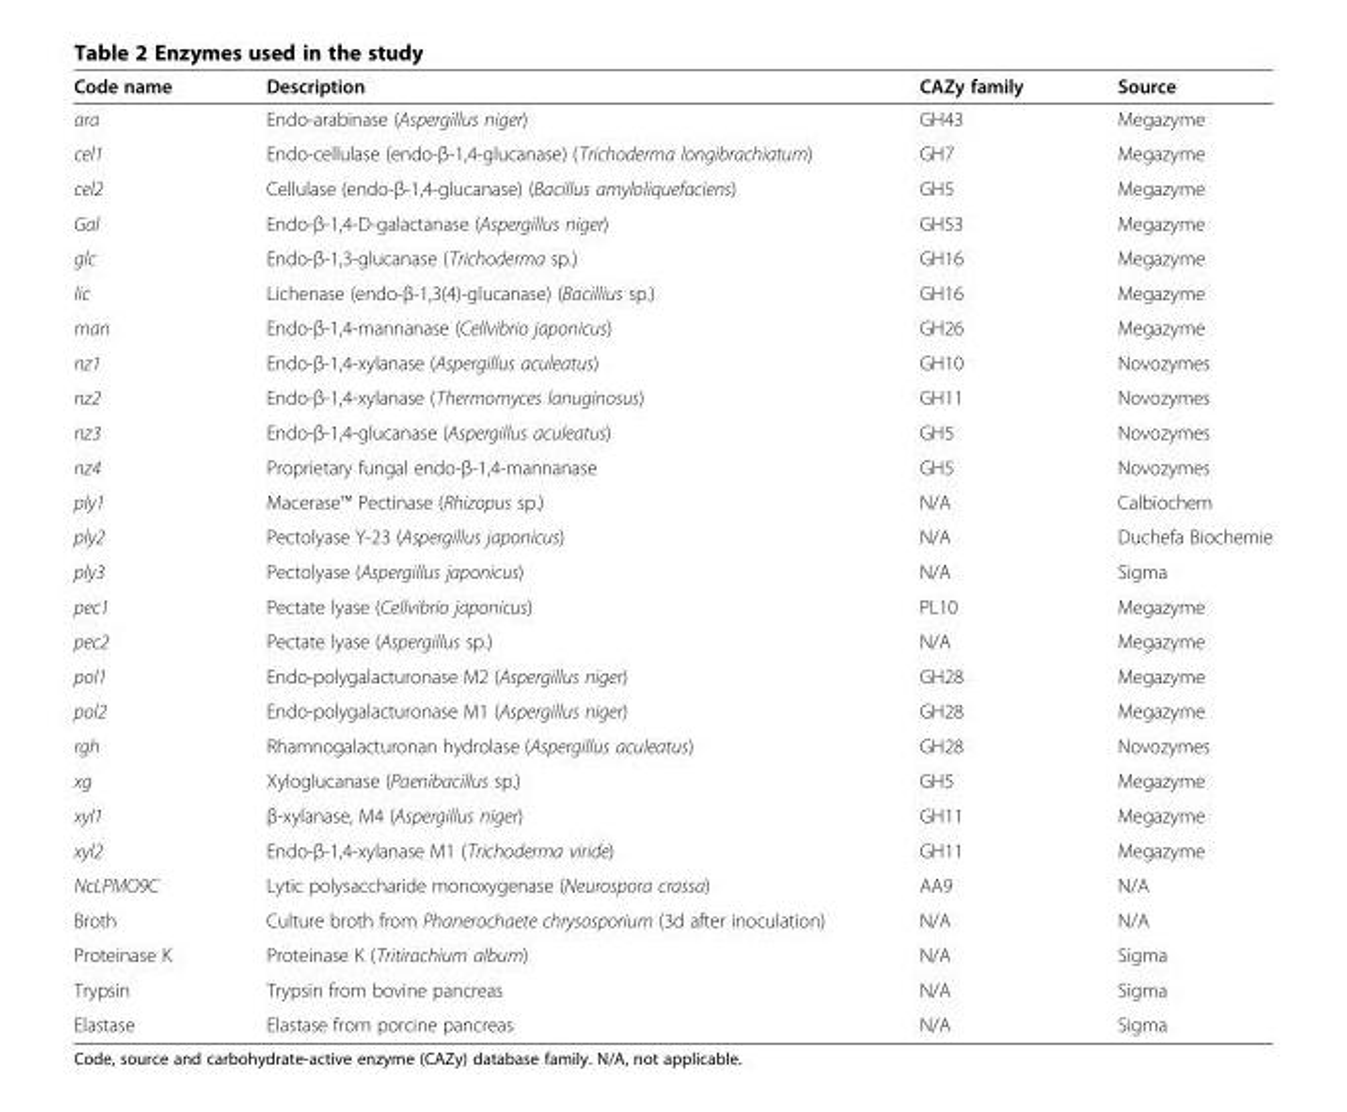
<table><thead><tr><td>Code name</td><td>Description</td><td>CAZy family</td><td>Source</td></tr></thead><tbody><tr><td>ara</td><td>Endo-arabinase (Aspergillus niger)</td><td>GH43</td><td>Megazyme</td></tr><tr><td>cel1</td><td>Endo-cellulase (endo-β-1,4-glucanase) (Trichoderma longibrachiatum)</td><td>GH7</td><td>Megazyme</td></tr><tr><td>cel2</td><td>Cellulase (endo-β-1,4-glucanase) (Bacillus amyloliquefaciens)</td><td>GH5</td><td>Megazyme</td></tr><tr><td>Gal</td><td>Endo-β-1,4-D-galactanase (Aspergillus niger)</td><td>GH53</td><td>Megazyme</td></tr><tr><td>glc</td><td>Endo-β-1,3-glucanase (Trichoderma sp.)</td><td>GH16</td><td>Megazyme</td></tr><tr><td>lic</td><td>Lichenase (endo-β-1,3(4)-glucanase) (Bacillius sp.)</td><td>GH16</td><td>Megazyme</td></tr><tr><td>man</td><td>Endo-β-1,4-mannanase (Cellvibrio japonicus)</td><td>GH26</td><td>Megazyme</td></tr><tr><td>nz1</td><td>Endo-β-1,4-xylanase (Aspergillus aculeatus)</td><td>GH10</td><td>Novozymes</td></tr><tr><td>nz2</td><td>Endo-β-1,4-xylanase (Thermomyces lanuginosus)</td><td>GH11</td><td>Novozymes</td></tr><tr><td>nz3</td><td>Endo-β-1,4-glucanase (Aspergillus aculeatus)</td><td>GH5</td><td>Novozymes</td></tr><tr><td>nz4</td><td>Proprietary fungal endo-β-1,4-mannanase</td><td>GH5</td><td>Novozymes</td></tr><tr><td>ply1</td><td>Macerase™ Pectinase (Rhizopus sp.)</td><td>N/A</td><td>Calbiochem</td></tr><tr><td>ply2</td><td>Pectolyase Y-23 (Aspergillus japonicus)</td><td>N/A</td><td>Duchefa Biochemie</td></tr><tr><td>ply3</td><td>Pectolyase (Aspergillus japonicus)</td><td>N/A</td><td>Sigma</td></tr><tr><td>pec1</td><td>Pectate lyase (Cellvibrio japonicus)</td><td>PL10</td><td>Megazyme</td></tr><tr><td>pec2</td><td>Pectate lyase (Aspergillus sp.)</td><td>N/A</td><td>Megazyme</td></tr><tr><td>pol1</td><td>Endo-polygalacturonase M2 (Aspergillus niger)</td><td>GH28</td><td>Megazyme</td></tr><tr><td>pol2</td><td>Endo-polygalacturonase M1 (Aspergillus niger)</td><td>GH28</td><td>Megazyme</td></tr><tr><td>rgh</td><td>Rhamnogalacturonan hydrolase (Aspergillus aculeatus)</td><td>GH28</td><td>Novozymes</td></tr><tr><td>xg</td><td>Xyloglucanase (Paenibacillus sp.)</td><td>GH5</td><td>Megazyme</td></tr><tr><td>xyl1</td><td>β-xylanase, M4 (Aspergillus niger)</td><td>GH11</td><td>Megazyme</td></tr><tr><td>xyl2</td><td>Endo-β-1,4-xylanase M1 (Trichoderma viride)</td><td>GH11</td><td>Megazyme</td></tr><tr><td>NcLPMO9C</td><td>Lytic polysaccharide monoxygenase (Neurospora crassa)</td><td>AA9</td><td>N/A</td></tr><tr><td>Broth</td><td>Culture broth from Phanerochaete chrysosporium (3d after inoculation)</td><td>N/A</td><td>N/A</td></tr><tr><td>Proteinase K</td><td>Proteinase K (Tritirachium album)</td><td>N/A</td><td>Sigma</td></tr><tr><td>Trypsin</td><td>Trypsin from bovine pancreas</td><td>N/A</td><td>Sigma</td></tr><tr><td>Elastase</td><td>Elastase from porcine pancreas</td><td>N/A</td><td>Sigma</td></tr></tbody></table>